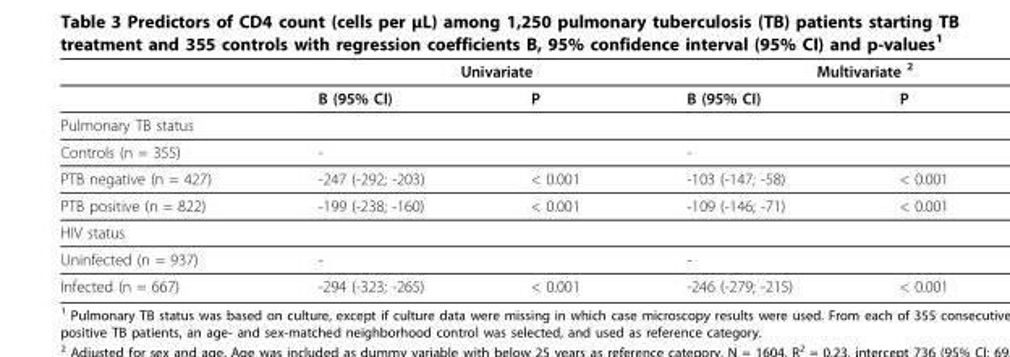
<table><thead><tr><td rowspan="2"></td><td colspan="2">Univariate</td><td colspan="2">Multivariate <sup>2</sup></td></tr><tr><td>B (95% CI)</td><td>P</td><td>B (95% CI)</td><td>P</td></tr></thead><tbody><tr><td colspan="5">Pulmonary TB status</td></tr><tr><td>Controls (n = 355)</td><td>-</td><td></td><td>-</td><td></td></tr><tr><td>PTB negative (n = 427)</td><td>-247 (-292; -203)</td><td>&lt; 0.001</td><td>-103 (-147; -58)</td><td>&lt; 0.001</td></tr><tr><td>PTB positive (n = 822)</td><td>-199 (-238; -160)</td><td>&lt; 0.001</td><td>-109 (-146; -71)</td><td>&lt; 0.001</td></tr><tr><td colspan="5">HIV status</td></tr><tr><td>Uninfected (n = 937)</td><td>-</td><td></td><td>-</td><td></td></tr><tr><td>Infected (n = 667)</td><td>-294 (-323; -265)</td><td>&lt; 0.001</td><td>-246 (-279; -215)</td><td>&lt; 0.001</td></tr></tbody></table>